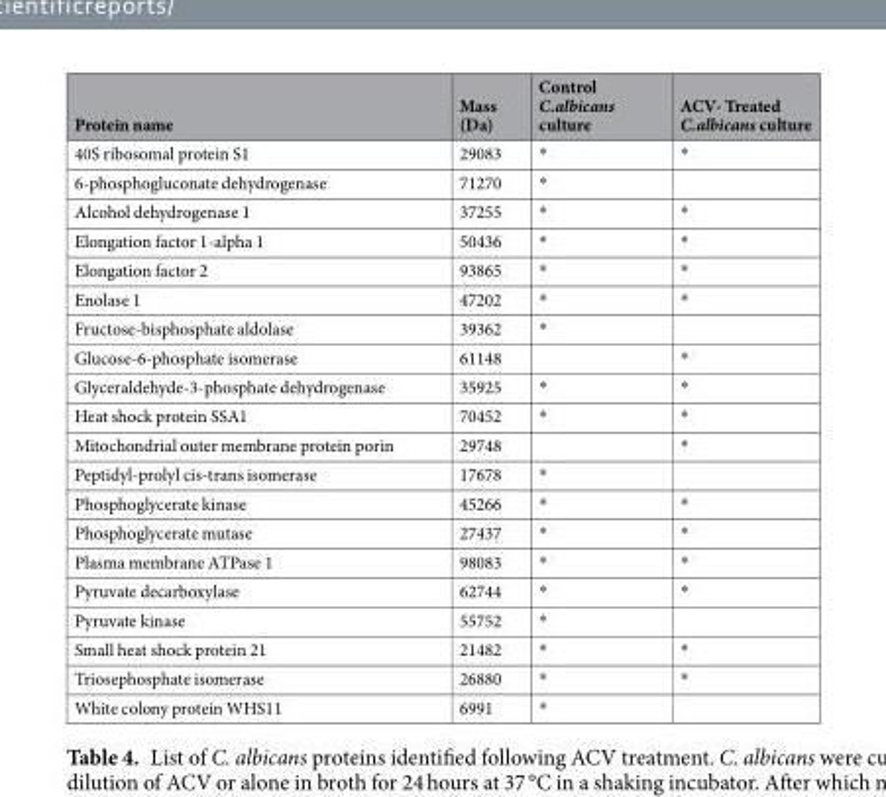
<table><thead><tr><td>Protein name</td><td>Mass (Da)</td><td>Control C.albicans culture</td><td>ACV- Treated C.albicans culture</td></tr></thead><tbody><tr><td>40S ribosomal protein S1</td><td>29083</td><td>*</td><td>*</td></tr><tr><td>6-phosphogluconate dehydrogenase</td><td>71270</td><td>*</td><td></td></tr><tr><td>Alcohol dehydrogenase 1</td><td>37255</td><td>*</td><td>*</td></tr><tr><td>Elongation factor 1-alpha 1</td><td>50436</td><td>*</td><td>*</td></tr><tr><td>Elongation factor 2</td><td>93865</td><td>*</td><td>*</td></tr><tr><td>Enolase 1</td><td>47202</td><td>*</td><td>*</td></tr><tr><td>Fructose-bisphosphate aldolase</td><td>39362</td><td>*</td><td></td></tr><tr><td>Glucose-6-phosphate isomerase</td><td>61148</td><td></td><td>*</td></tr><tr><td>Glyceraldehyde-3-phosphate dehydrogenase</td><td>35925</td><td>*</td><td>*</td></tr><tr><td>Heat shock protein SSA1</td><td>70452</td><td>*</td><td>*</td></tr><tr><td>Mitochondrial outer membrane protein porin</td><td>29748</td><td></td><td>*</td></tr><tr><td>Peptidyl-prolyl cis-trans isomerase</td><td>17678</td><td>*</td><td></td></tr><tr><td>Phosphoglycerate kinase</td><td>45266</td><td>*</td><td>*</td></tr><tr><td>Phosphoglycerate mutase</td><td>27437</td><td>*</td><td>*</td></tr><tr><td>Plasma membrane ATPase 1</td><td>98083</td><td>*</td><td>*</td></tr><tr><td>Pyruvate decarboxylase</td><td>62744</td><td>*</td><td>*</td></tr><tr><td>Pyruvate kinase</td><td>55752</td><td>*</td><td></td></tr><tr><td>Small heat shock protein 21</td><td>21482</td><td>*</td><td>*</td></tr><tr><td>Triosephosphate isomerase</td><td>26880</td><td>*</td><td>*</td></tr><tr><td>White colony protein WHS11</td><td>6991</td><td>*</td><td></td></tr></tbody></table>